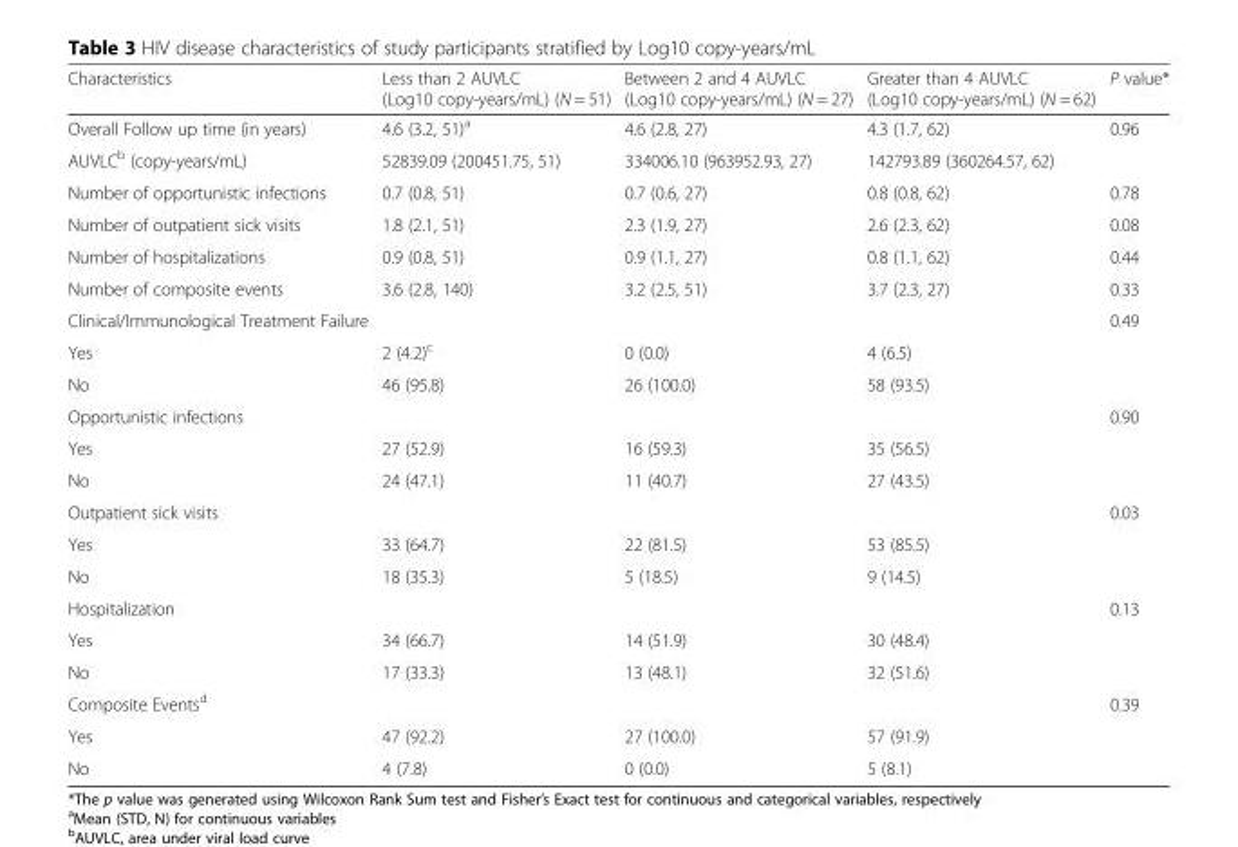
<table><thead><tr><td>Characteristics</td><td>Less than 2 AUVLC (Log10 copy-years/mL) (N = 51)</td><td>Between 2 and 4 AUVLC (Log10 copy-years/mL) (N = 27)</td><td>Greater than 4 AUVLC (Log10 copy-years/mL) (N = 62)</td><td>P value*</td></tr></thead><tbody><tr><td>Overall Follow up time (in years)</td><td>4.6 (3.2, 51)<sup>a</sup></td><td>4.6 (2.8, 27)</td><td>4.3 (1.7, 62)</td><td>0.96</td></tr><tr><td>AUVLC<sup>b</sup> (copy-years/mL)</td><td>52839.09 (200451.75, 51)</td><td>334006.10 (963952.93, 27)</td><td>142793.89 (360264.57, 62)</td><td></td></tr><tr><td>Number of opportunistic infections</td><td>0.7 (0.8, 51)</td><td>0.7 (0.6, 27)</td><td>0.8 (0.8, 62)</td><td>0.78</td></tr><tr><td>Number of outpatient sick visits</td><td>1.8 (2.1, 51)</td><td>2.3 (1.9, 27)</td><td>2.6 (2.3, 62)</td><td>0.08</td></tr><tr><td>Number of hospitalizations</td><td>0.9 (0.8, 51)</td><td>0.9 (1.1, 27)</td><td>0.8 (1.1, 62)</td><td>0.44</td></tr><tr><td>Number of composite events</td><td>3.6 (2.8, 140)</td><td>3.2 (2.5, 51)</td><td>3.7 (2.3, 27)</td><td>0.33</td></tr><tr><td>Clinical/Immunological Treatment Failure</td><td></td><td></td><td></td><td>0.49</td></tr><tr><td>Yes</td><td>2 (4.2)<sup>c</sup></td><td>0 (0.0)</td><td>4 (6.5)</td><td></td></tr><tr><td>No</td><td>46 (95.8)</td><td>26 (100.0)</td><td>58 (93.5)</td><td></td></tr><tr><td>Opportunistic infections</td><td></td><td></td><td></td><td>0.90</td></tr><tr><td>Yes</td><td>27 (52.9)</td><td>16 (59.3)</td><td>35 (56.5)</td><td></td></tr><tr><td>No</td><td>24 (47.1)</td><td>11 (40.7)</td><td>27 (43.5)</td><td></td></tr><tr><td>Outpatient sick visits</td><td></td><td></td><td></td><td>0.03</td></tr><tr><td>Yes</td><td>33 (64.7)</td><td>22 (81.5)</td><td>53 (85.5)</td><td></td></tr><tr><td>No</td><td>18 (35.3)</td><td>5 (18.5)</td><td>9 (14.5)</td><td></td></tr><tr><td>Hospitalization</td><td></td><td></td><td></td><td>0.13</td></tr><tr><td>Yes</td><td>34 (66.7)</td><td>14 (51.9)</td><td>30 (48.4)</td><td></td></tr><tr><td>No</td><td>17 (33.3)</td><td>13 (48.1)</td><td>32 (51.6)</td><td></td></tr><tr><td>Composite Events<sup>d</sup></td><td></td><td></td><td></td><td>0.39</td></tr><tr><td>Yes</td><td>47 (92.2)</td><td>27 (100.0)</td><td>57 (91.9)</td><td></td></tr><tr><td>No</td><td>4 (7.8)</td><td>0 (0.0)</td><td>5 (8.1)</td><td></td></tr></tbody></table>